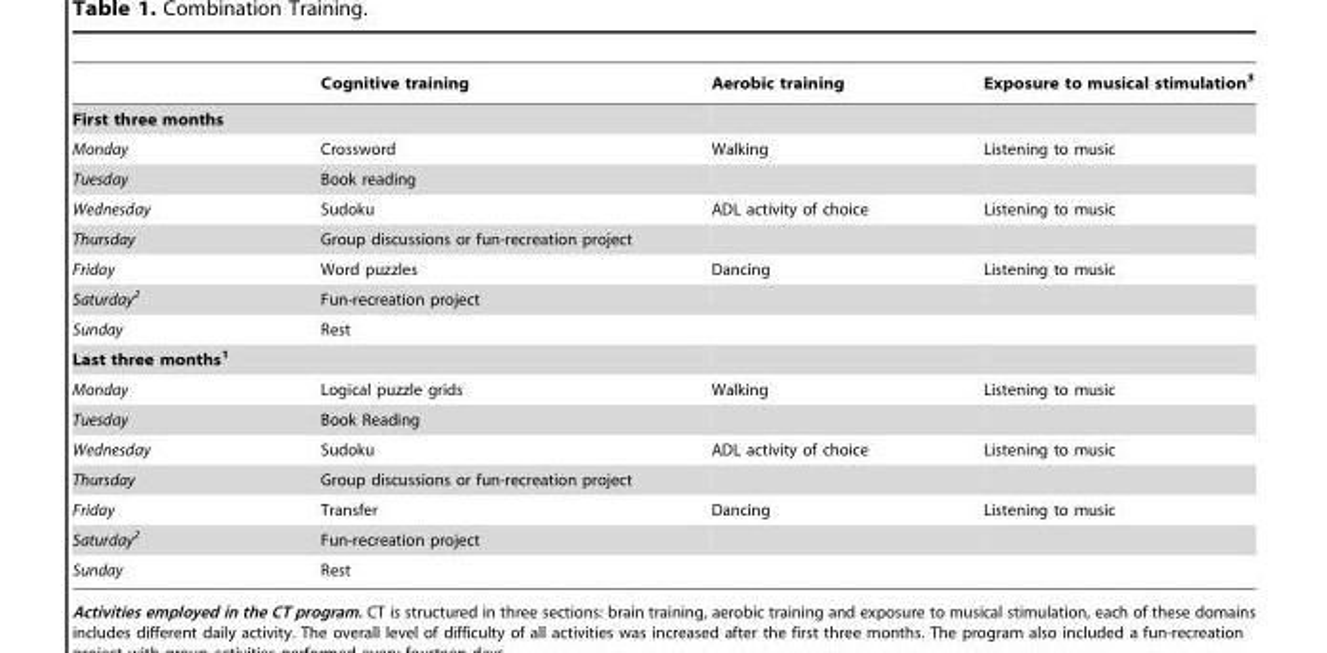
<table><thead><tr><td></td><td>Cognitive training</td><td>Aerobic training</td><td>Exposure to musical stimulation<sup>3</sup></td></tr></thead><tbody><tr><td colspan="4">First three months</td></tr><tr><td>Monday</td><td>Crossword</td><td>Walking</td><td>Listening to music</td></tr><tr><td>Tuesday</td><td>Book reading</td><td></td><td></td></tr><tr><td>Wednesday</td><td>Sudoku</td><td>ADL activity of choice</td><td>Listening to music</td></tr><tr><td>Thursday</td><td>Group discussions or fun-recreation project</td><td></td><td></td></tr><tr><td>Friday</td><td>Word puzzles</td><td>Dancing</td><td>Listening to music</td></tr><tr><td>Saturday<sup>2</sup></td><td>Fun-recreation project</td><td></td><td></td></tr><tr><td>Sunday</td><td>Rest</td><td></td><td></td></tr><tr><td colspan="4">Last three months<sup>1</sup></td></tr><tr><td>Monday</td><td>Logical puzzle grids</td><td>Walking</td><td>Listening to music</td></tr><tr><td>Tuesday</td><td>Book Reading</td><td></td><td></td></tr><tr><td>Wednesday</td><td>Sudoku</td><td>ADL activity of choice</td><td>Listening to music</td></tr><tr><td>Thursday</td><td>Group discussions or fun-recreation project</td><td></td><td></td></tr><tr><td>Friday</td><td>Transfer</td><td>Dancing</td><td>Listening to music</td></tr><tr><td>Saturday<sup>2</sup></td><td>Fun-recreation project</td><td></td><td></td></tr><tr><td>Sunday</td><td>Rest</td><td></td><td></td></tr></tbody></table>